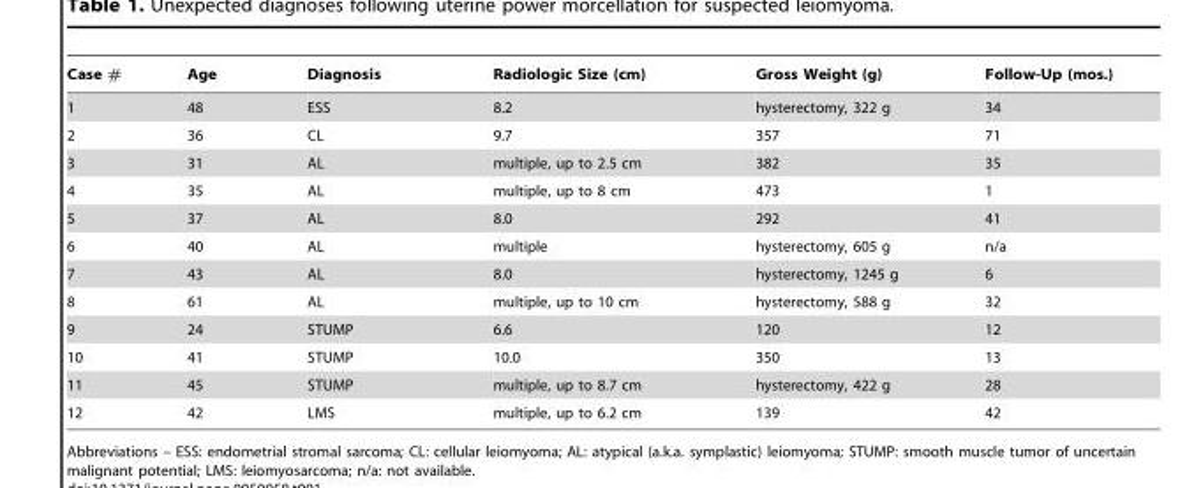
<table><thead><tr><td>Case #</td><td>Age</td><td>Diagnosis</td><td>Radiologic Size (cm)</td><td>Gross Weight (g)</td><td>Follow-Up (mos.)</td></tr></thead><tbody><tr><td>1</td><td>48</td><td>ESS</td><td>8.2</td><td>hysterectomy, 322 g</td><td>34</td></tr><tr><td>2</td><td>36</td><td>CL</td><td>9.7</td><td>357</td><td>71</td></tr><tr><td>3</td><td>31</td><td>AL</td><td>multiple, up to 2.5 cm</td><td>382</td><td>35</td></tr><tr><td>4</td><td>35</td><td>AL</td><td>multiple, up to 8 cm</td><td>473</td><td>1</td></tr><tr><td>5</td><td>37</td><td>AL</td><td>8.0</td><td>292</td><td>41</td></tr><tr><td>6</td><td>40</td><td>AL</td><td>multiple</td><td>hysterectomy, 605 g</td><td>n/a</td></tr><tr><td>7</td><td>43</td><td>AL</td><td>8.0</td><td>hysterectomy, 1245 g</td><td>6</td></tr><tr><td>8</td><td>61</td><td>AL</td><td>multiple, up to 10 cm</td><td>hysterectomy, 588 g</td><td>32</td></tr><tr><td>9</td><td>24</td><td>STUMP</td><td>6.6</td><td>120</td><td>12</td></tr><tr><td>10</td><td>41</td><td>STUMP</td><td>10.0</td><td>350</td><td>13</td></tr><tr><td>11</td><td>45</td><td>STUMP</td><td>multiple, up to 8.7 cm</td><td>hysterectomy, 422 g</td><td>28</td></tr><tr><td>12</td><td>42</td><td>LMS</td><td>multiple, up to 6.2 cm</td><td>139</td><td>42</td></tr></tbody></table>